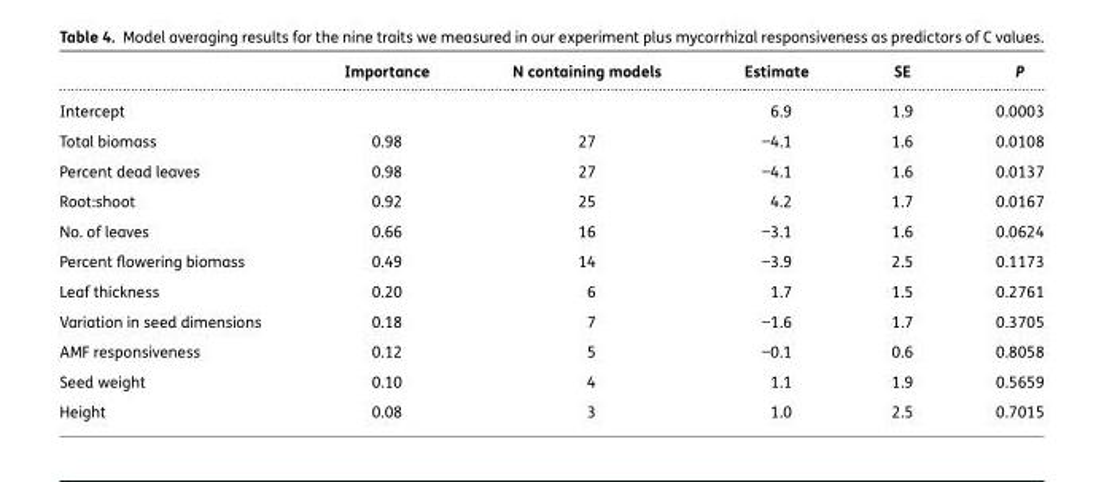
<table><thead><tr><td></td><td>Importance</td><td>N containing models</td><td>Estimate</td><td>SE</td><td>P</td></tr></thead><tbody><tr><td>Intercept</td><td></td><td></td><td>6.9</td><td>1.9</td><td>0.0003</td></tr><tr><td>Total biomass</td><td>0.98</td><td>27</td><td>−4.1</td><td>1.6</td><td>0.0108</td></tr><tr><td>Percent dead leaves</td><td>0.98</td><td>27</td><td>−4.1</td><td>1.6</td><td>0.0137</td></tr><tr><td>Root:shoot</td><td>0.92</td><td>25</td><td>4.2</td><td>1.7</td><td>0.0167</td></tr><tr><td>No. of leaves</td><td>0.66</td><td>16</td><td>−3.1</td><td>1.6</td><td>0.0624</td></tr><tr><td>Percent flowering biomass</td><td>0.49</td><td>14</td><td>−3.9</td><td>2.5</td><td>0.1173</td></tr><tr><td>Leaf thickness</td><td>0.20</td><td>6</td><td>1.7</td><td>1.5</td><td>0.2761</td></tr><tr><td>Variation in seed dimensions</td><td>0.18</td><td>7</td><td>−1.6</td><td>1.7</td><td>0.3705</td></tr><tr><td>AMF responsiveness</td><td>0.12</td><td>5</td><td>−0.1</td><td>0.6</td><td>0.8058</td></tr><tr><td>Seed weight</td><td>0.10</td><td>4</td><td>1.1</td><td>1.9</td><td>0.5659</td></tr><tr><td>Height</td><td>0.08</td><td>3</td><td>1.0</td><td>2.5</td><td>0.7015</td></tr></tbody></table>